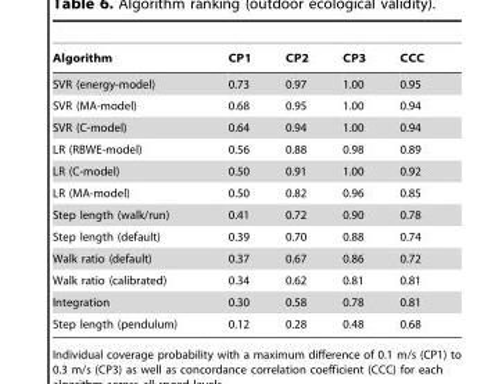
<table><thead><tr><td>Algorithm</td><td>CP1</td><td>CP2</td><td>CP3</td><td>CCC</td></tr></thead><tbody><tr><td>SVR (energy-model)</td><td>0.73</td><td>0.97</td><td>1.00</td><td>0.95</td></tr><tr><td>SVR (MA-model)</td><td>0.68</td><td>0.95</td><td>1.00</td><td>0.94</td></tr><tr><td>SVR (C-model)</td><td>0.64</td><td>0.94</td><td>1.00</td><td>0.94</td></tr><tr><td>LR (RBWE-model)</td><td>0.56</td><td>0.88</td><td>0.98</td><td>0.89</td></tr><tr><td>LR (C-model)</td><td>0.50</td><td>0.91</td><td>1.00</td><td>0.92</td></tr><tr><td>LR (MA-model)</td><td>0.50</td><td>0.82</td><td>0.96</td><td>0.85</td></tr><tr><td>Step length (walk/run)</td><td>0.41</td><td>0.72</td><td>0.90</td><td>0.78</td></tr><tr><td>Step length (default)</td><td>0.39</td><td>0.70</td><td>0.88</td><td>0.74</td></tr><tr><td>Walk ratio (default)</td><td>0.37</td><td>0.67</td><td>0.86</td><td>0.72</td></tr><tr><td>Walk ratio (calibrated)</td><td>0.34</td><td>0.62</td><td>0.81</td><td>0.81</td></tr><tr><td>Integration</td><td>0.30</td><td>0.58</td><td>0.78</td><td>0.81</td></tr><tr><td>Step length (pendulum)</td><td>0.12</td><td>0.28</td><td>0.48</td><td>0.68</td></tr></tbody></table>